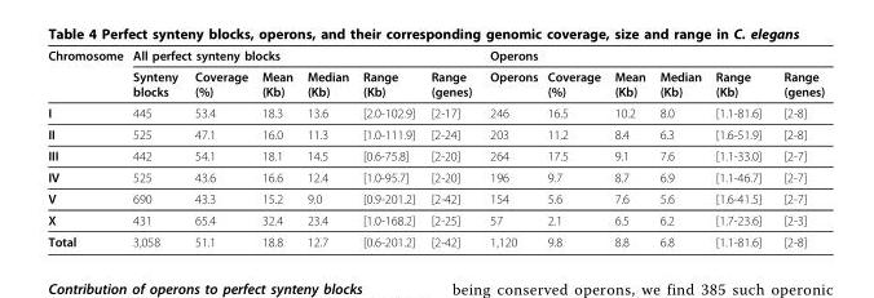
<table><thead><tr><td rowspan="2">Chromosome</td><td colspan="6">All perfect synteny blocks</td><td colspan="6">Operons</td></tr><tr><td>Synteny blocks</td><td>Coverage (%)</td><td>Mean (Kb)</td><td>Median (Kb)</td><td>Range (Kb)</td><td>Range (genes)</td><td>Operons</td><td>Coverage (%)</td><td>Mean (Kb)</td><td>Median (Kb)</td><td>Range (Kb)</td><td>Range (genes)</td></tr></thead><tbody><tr><td>I</td><td>445</td><td>53.4</td><td>18.3</td><td>13.6</td><td>[2.0-102.9]</td><td>[2-17]</td><td>246</td><td>16.5</td><td>10.2</td><td>8.0</td><td>[1.1-81.6]</td><td>[2-8]</td></tr><tr><td>II</td><td>525</td><td>47.1</td><td>16.0</td><td>11.3</td><td>[1.0-111.9]</td><td>[2-24]</td><td>203</td><td>11.2</td><td>8.4</td><td>6.3</td><td>[1.6-51.9]</td><td>[2-8]</td></tr><tr><td>III</td><td>442</td><td>54.1</td><td>18.1</td><td>14.5</td><td>[0.6-75.8]</td><td>[2-20]</td><td>264</td><td>17.5</td><td>9.1</td><td>7.6</td><td>[1.1-33.0]</td><td>[2-7]</td></tr><tr><td>IV</td><td>525</td><td>43.6</td><td>16.6</td><td>12.4</td><td>[1.0-95.7]</td><td>[2-20]</td><td>196</td><td>9.7</td><td>8.7</td><td>6.9</td><td>[1.1-46.7]</td><td>[2-7]</td></tr><tr><td>V</td><td>690</td><td>43.3</td><td>15.2</td><td>9.0</td><td>[0.9-201.2]</td><td>[2-42]</td><td>154</td><td>5.6</td><td>7.6</td><td>5.6</td><td>[1.6-41.5]</td><td>[2-7]</td></tr><tr><td>X</td><td>431</td><td>65.4</td><td>32.4</td><td>23.4</td><td>[1.0-168.2]</td><td>[2-25]</td><td>57</td><td>2.1</td><td>6.5</td><td>6.2</td><td>[1.7-23.6]</td><td>[2-3]</td></tr><tr><td>Total</td><td>3,058</td><td>51.1</td><td>18.8</td><td>12.7</td><td>[0.6-201.2]</td><td>[2-42]</td><td>1,120</td><td>9.8</td><td>8.8</td><td>6.8</td><td>[1.1-81.6]</td><td>[2-8]</td></tr></tbody></table>